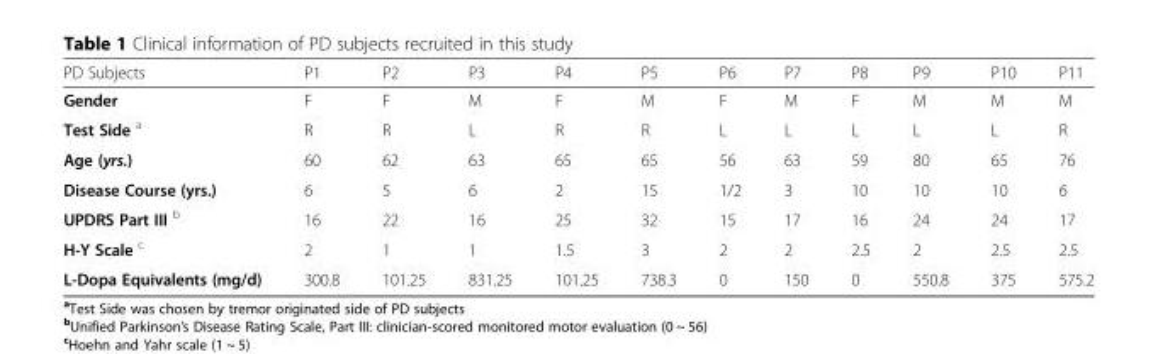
<table><thead><tr><td>PD Subjects</td><td>P1</td><td>P2</td><td>P3</td><td>P4</td><td>P5</td><td>P6</td><td>P7</td><td>P8</td><td>P9</td><td>P10</td><td>P11</td></tr></thead><tbody><tr><td>Gender</td><td>F</td><td>F</td><td>M</td><td>F</td><td>M</td><td>F</td><td>M</td><td>F</td><td>M</td><td>M</td><td>M</td></tr><tr><td>Test Side <sup>a</sup></td><td>R</td><td>R</td><td>L</td><td>R</td><td>R</td><td>L</td><td>L</td><td>L</td><td>L</td><td>L</td><td>R</td></tr><tr><td>Age (yrs.)</td><td>60</td><td>62</td><td>63</td><td>65</td><td>65</td><td>56</td><td>63</td><td>59</td><td>80</td><td>65</td><td>76</td></tr><tr><td>Disease Course (yrs.)</td><td>6</td><td>5</td><td>6</td><td>2</td><td>15</td><td>1/2</td><td>3</td><td>10</td><td>10</td><td>10</td><td>6</td></tr><tr><td>UPDRS Part III <sup>b</sup></td><td>16</td><td>22</td><td>16</td><td>25</td><td>32</td><td>15</td><td>17</td><td>16</td><td>24</td><td>24</td><td>17</td></tr><tr><td>H-Y Scale <sup>c</sup></td><td>2</td><td>1</td><td>1</td><td>1.5</td><td>3</td><td>2</td><td>2</td><td>2.5</td><td>2</td><td>2.5</td><td>2.5</td></tr><tr><td>L-Dopa Equivalents (mg/d)</td><td>300.8</td><td>101.25</td><td>831.25</td><td>101.25</td><td>738.3</td><td>0</td><td>150</td><td>0</td><td>550.8</td><td>375</td><td>575.2</td></tr></tbody></table>